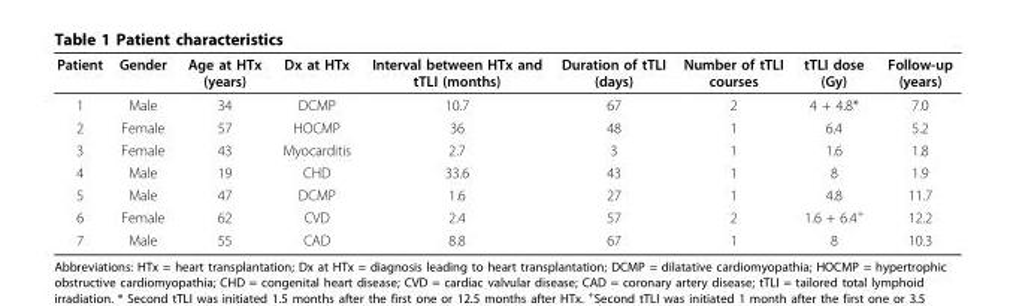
<table><thead><tr><td>Patient</td><td>Gender</td><td>Age at HTx (years)</td><td>Dx at HTx</td><td>Interval between HTx and tTLI (months)</td><td>Duration of tTLI (days)</td><td>Number of tTLI courses</td><td>tTLI dose (Gy)</td><td>Follow-up (years)</td></tr></thead><tbody><tr><td>1</td><td>Male</td><td>34</td><td>DCMP</td><td>10.7</td><td>67</td><td>2</td><td>4 + 4.8*</td><td>7.0</td></tr><tr><td>2</td><td>Female</td><td>57</td><td>HOCMP</td><td>36</td><td>48</td><td>1</td><td>6.4</td><td>5.2</td></tr><tr><td>3</td><td>Female</td><td>43</td><td>Myocarditis</td><td>2.7</td><td>3</td><td>1</td><td>1.6</td><td>1.8</td></tr><tr><td>4</td><td>Male</td><td>19</td><td>CHD</td><td>33.6</td><td>43</td><td>1</td><td>8</td><td>1.9</td></tr><tr><td>5</td><td>Male</td><td>47</td><td>DCMP</td><td>1.6</td><td>27</td><td>1</td><td>4.8</td><td>11.7</td></tr><tr><td>6</td><td>Female</td><td>62</td><td>CVD</td><td>2.4</td><td>57</td><td>2</td><td>1.6 + 6.4<sup>+</sup></td><td>12.2</td></tr><tr><td>7</td><td>Male</td><td>55</td><td>CAD</td><td>8.8</td><td>67</td><td>1</td><td>8</td><td>10.3</td></tr></tbody></table>